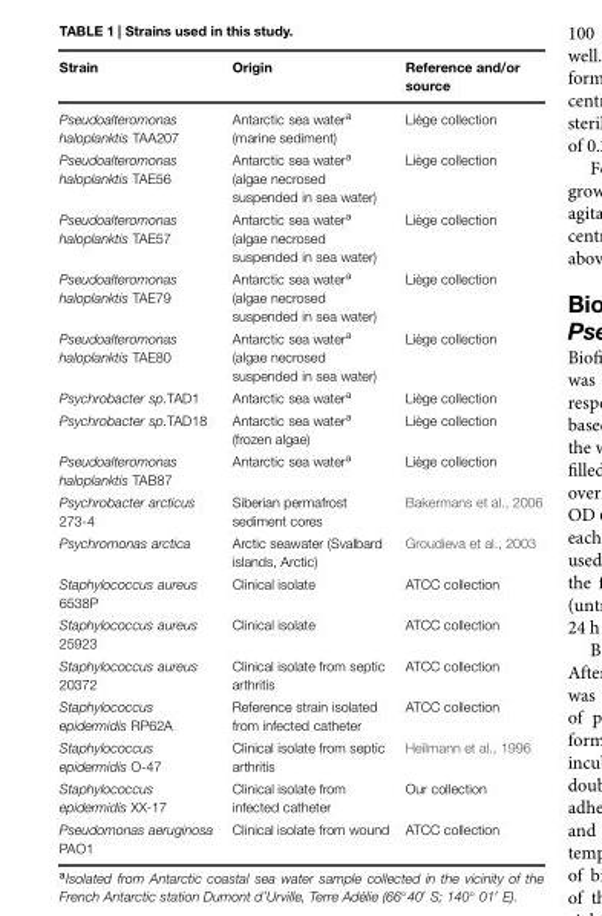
<table><thead><tr><td>Strain</td><td>Origin</td><td>Reference and/or source</td></tr></thead><tbody><tr><td>Pseudoalteromonas haloplanktis TAA207</td><td>Antarctic sea water<sup>a</sup> (marine sediment)</td><td>Liège collection</td></tr><tr><td>Pseudoalteromonas haloplanktis TAE56</td><td>Antarctic sea water<sup>a</sup> (algae necrosed suspended in sea water)</td><td>Liège collection</td></tr><tr><td>Pseudoalteromonas haloplanktis TAE57</td><td>Antarctic sea water<sup>a</sup> (algae necrosed suspended in sea water)</td><td>Liège collection</td></tr><tr><td>Pseudoalteromonas haloplanktis TAE79</td><td>Antarctic sea water<sup>a</sup> (algae necrosed suspended in sea water)</td><td>Liège collection</td></tr><tr><td>Pseudoalteromonas haloplanktis TAE80</td><td>Antarctic sea water<sup>a</sup> (algae necrosed suspended in sea water)</td><td>Liège collection</td></tr><tr><td>Psychrobacter sp.TAD1</td><td>Antarctic sea water<sup>a</sup></td><td>Liège collection</td></tr><tr><td>Psychrobacter sp.TAD18</td><td>Antarctic sea water<sup>a</sup> (frozen algae)</td><td>Liège collection</td></tr><tr><td>Pseudoalteromonas haloplanktis TAB87</td><td>Antarctic sea water<sup>a</sup></td><td>Liège collection</td></tr><tr><td>Psychrobacter arcticus 273-4</td><td>Siberian permafrost sediment cores</td><td>Bakermans et al., 2006</td></tr><tr><td>Psychromonas arctica</td><td>Arctic seawater (Svalbard islands, Arctic)</td><td>Groudieva et al., 2003</td></tr><tr><td>Staphylococcus aureus 6538P</td><td>Clinical isolate</td><td>ATCC collection</td></tr><tr><td>Staphylococcus aureus 25923</td><td>Clinical isolate</td><td>ATCC collection</td></tr><tr><td>Staphylococcus aureus 20372</td><td>Clinical isolate from septic arthritis</td><td>ATCC collection</td></tr><tr><td>Staphylococcus epidermidis RP62A</td><td>Reference strain isolated from infected catheter</td><td>ATCC collection</td></tr><tr><td>Staphylococcus epidermidis O-47</td><td>Clinical isolate from septic arthritis</td><td>Heilmann et al., 1996</td></tr><tr><td>Staphylococcus epidermidis XX-17</td><td>Clinical isolate from infected catheter</td><td>Our collection</td></tr><tr><td>Pseudomonas aeruginosa PAO1</td><td>Clinical isolate from wound</td><td>ATCC collection</td></tr></tbody></table>